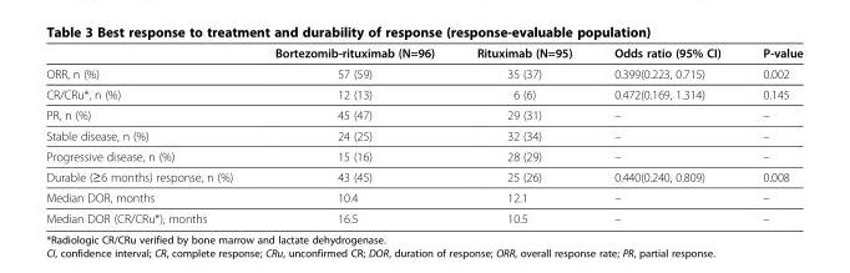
<table><thead><tr><td></td><td>Bortezomib-rituximab (N=96)</td><td>Rituximab (N=95)</td><td>Odds ratio (95% CI)</td><td>P-value</td></tr></thead><tbody><tr><td>ORR, n (%)</td><td>57 (59)</td><td>35 (37)</td><td>0.399(0.223, 0.715)</td><td>0.002</td></tr><tr><td>CR/CRu*, n (%)</td><td>12 (13)</td><td>6 (6)</td><td>0.472(0.169, 1.314)</td><td>0.145</td></tr><tr><td>PR, n (%)</td><td>45 (47)</td><td>29 (31)</td><td>–</td><td>–</td></tr><tr><td>Stable disease, n (%)</td><td>24 (25)</td><td>32 (34)</td><td>–</td><td>–</td></tr><tr><td>Progressive disease, n (%)</td><td>15 (16)</td><td>28 (29)</td><td>–</td><td>–</td></tr><tr><td>Durable (≥6 months) response, n (%)</td><td>43 (45)</td><td>25 (26)</td><td>0.440(0.240, 0.809)</td><td>0.008</td></tr><tr><td>Median DOR, months</td><td>10.4</td><td>12.1</td><td>–</td><td>–</td></tr><tr><td>Median DOR (CR/CRu*), months</td><td>16.5</td><td>10.5</td><td>–</td><td>–</td></tr></tbody></table>